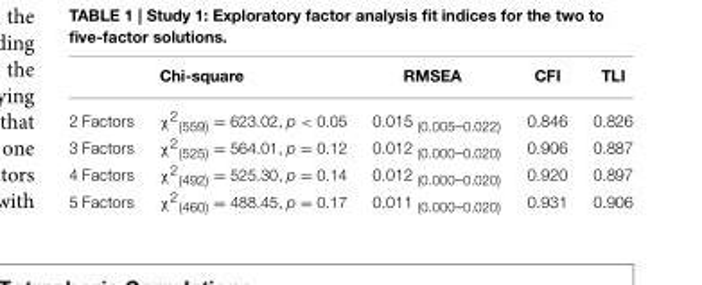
<table><thead><tr><td></td><td>Chi-square</td><td>RMSEA</td><td>CFI</td><td>TLI</td></tr></thead><tbody><tr><td>2 Factors</td><td>χ<sup>2</sup><sub>(559)</sub> = 623.02, p &lt; 0.05</td><td>0.015 <sub>(0.005–0.022)</sub></td><td>0.846</td><td>0.826</td></tr><tr><td>3 Factors</td><td>χ<sup>2</sup><sub>(525)</sub> = 564.01, p = 0.12</td><td>0.012 <sub>(0.000–0.020)</sub></td><td>0.906</td><td>0.887</td></tr><tr><td>4 Factors</td><td>χ<sup>2</sup><sub>(492)</sub> = 525.30, p = 0.14</td><td>0.012 <sub>(0.000–0.020)</sub></td><td>0.920</td><td>0.897</td></tr><tr><td>5 Factors</td><td>χ<sup>2</sup><sub>(460)</sub> = 488.45, p = 0.17</td><td>0.011 <sub>(0.000–0.020)</sub></td><td>0.931</td><td>0.906</td></tr></tbody></table>